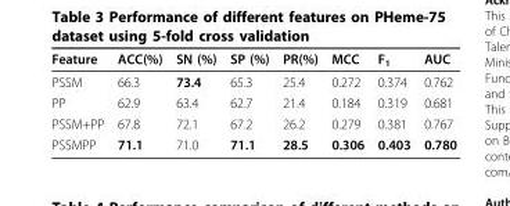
<table><thead><tr><td>Feature</td><td>ACC(%)</td><td>SN (%)</td><td>SP (%)</td><td>PR(%)</td><td>MCC</td><td>F<sub>1</sub></td><td>AUC</td></tr></thead><tbody><tr><td>PSSM</td><td>66.3</td><td>73.4</td><td>65.3</td><td>25.4</td><td>0.272</td><td>0.374</td><td>0.762</td></tr><tr><td>PP</td><td>62.9</td><td>63.4</td><td>62.7</td><td>21.4</td><td>0.184</td><td>0.319</td><td>0.681</td></tr><tr><td>PSSM+PP</td><td>67.8</td><td>72.1</td><td>67.2</td><td>26.2</td><td>0.279</td><td>0.381</td><td>0.767</td></tr><tr><td>PSSMPP</td><td>71.1</td><td>71.0</td><td>71.1</td><td>28.5</td><td>0.306</td><td>0.403</td><td>0.780</td></tr></tbody></table>